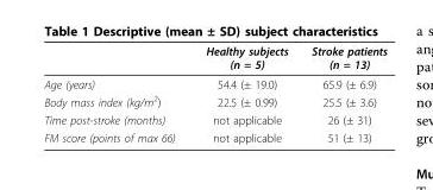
<table><thead><tr><td></td><td>Healthy subjects (n = 5)</td><td>Stroke patients (n = 13)</td></tr></thead><tbody><tr><td>Age (years)</td><td>54.4 (± 19.0)</td><td>65.9 (± 6.9)</td></tr><tr><td>Body mass index (kg/m<sup>2</sup>)</td><td>22.5 (± 0.99)</td><td>25.5 (± 3.6)</td></tr><tr><td>Time post-stroke (months)</td><td>not applicable</td><td>26 (± 31)</td></tr><tr><td>FM score (points of max 66)</td><td>not applicable</td><td>51 (± 13)</td></tr></tbody></table>